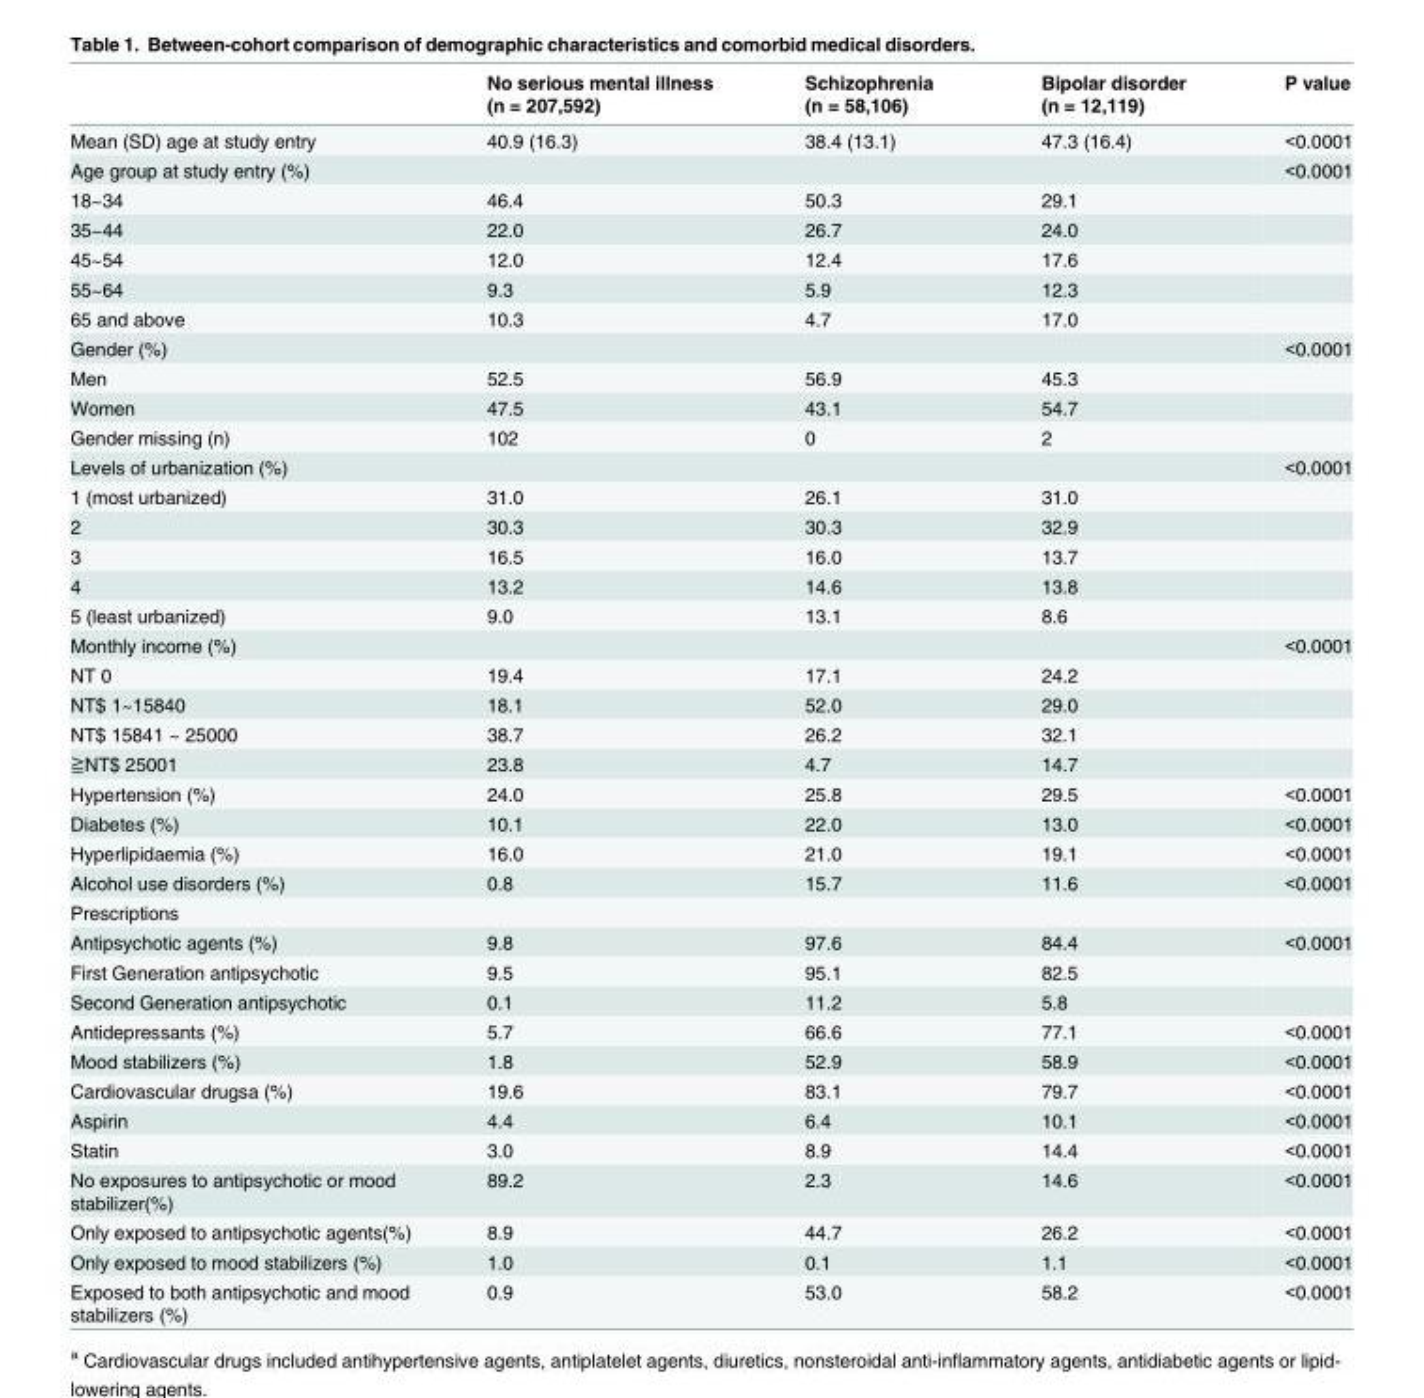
<table><thead><tr><td></td><td>No serious mental illness (n = 207,592)</td><td>Schizophrenia (n = 58,106)</td><td>Bipolar disorder (n = 12,119)</td><td>P value</td></tr></thead><tbody><tr><td>Mean (SD) age at study entry</td><td>40.9 (16.3)</td><td>38.4 (13.1)</td><td>47.3 (16.4)</td><td>&lt;0.0001</td></tr><tr><td>Age group at study entry (%)</td><td></td><td></td><td></td><td>&lt;0.0001</td></tr><tr><td>18~34</td><td>46.4</td><td>50.3</td><td>29.1</td><td></td></tr><tr><td>35~44</td><td>22.0</td><td>26.7</td><td>24.0</td><td></td></tr><tr><td>45~54</td><td>12.0</td><td>12.4</td><td>17.6</td><td></td></tr><tr><td>55~64</td><td>9.3</td><td>5.9</td><td>12.3</td><td></td></tr><tr><td>65 and above</td><td>10.3</td><td>4.7</td><td>17.0</td><td></td></tr><tr><td>Gender (%)</td><td></td><td></td><td></td><td>&lt;0.0001</td></tr><tr><td>Men</td><td>52.5</td><td>56.9</td><td>45.3</td><td></td></tr><tr><td>Women</td><td>47.5</td><td>43.1</td><td>54.7</td><td></td></tr><tr><td>Gender missing (n)</td><td>102</td><td>0</td><td>2</td><td></td></tr><tr><td>Levels of urbanization (%)</td><td></td><td></td><td></td><td>&lt;0.0001</td></tr><tr><td>1 (most urbanized)</td><td>31.0</td><td>26.1</td><td>31.0</td><td></td></tr><tr><td>2</td><td>30.3</td><td>30.3</td><td>32.9</td><td></td></tr><tr><td>3</td><td>16.5</td><td>16.0</td><td>13.7</td><td></td></tr><tr><td>4</td><td>13.2</td><td>14.6</td><td>13.8</td><td></td></tr><tr><td>5 (least urbanized)</td><td>9.0</td><td>13.1</td><td>8.6</td><td></td></tr><tr><td>Monthly income (%)</td><td></td><td></td><td></td><td>&lt;0.0001</td></tr><tr><td>NT 0</td><td>19.4</td><td>17.1</td><td>24.2</td><td></td></tr><tr><td>NT$ 1~15840</td><td>18.1</td><td>52.0</td><td>29.0</td><td></td></tr><tr><td>NT$ 15841 ~ 25000</td><td>38.7</td><td>26.2</td><td>32.1</td><td></td></tr><tr><td>≧NT$ 25001</td><td>23.8</td><td>4.7</td><td>14.7</td><td></td></tr><tr><td>Hypertension (%)</td><td>24.0</td><td>25.8</td><td>29.5</td><td>&lt;0.0001</td></tr><tr><td>Diabetes (%)</td><td>10.1</td><td>22.0</td><td>13.0</td><td>&lt;0.0001</td></tr><tr><td>Hyperlipidaemia (%)</td><td>16.0</td><td>21.0</td><td>19.1</td><td>&lt;0.0001</td></tr><tr><td>Alcohol use disorders (%)</td><td>0.8</td><td>15.7</td><td>11.6</td><td>&lt;0.0001</td></tr><tr><td colspan="5">Prescriptions</td></tr><tr><td>Antipsychotic agents (%)</td><td>9.8</td><td>97.6</td><td>84.4</td><td>&lt;0.0001</td></tr><tr><td>First Generation antipsychotic</td><td>9.5</td><td>95.1</td><td>82.5</td><td></td></tr><tr><td>Second Generation antipsychotic</td><td>0.1</td><td>11.2</td><td>5.8</td><td></td></tr><tr><td>Antidepressants (%)</td><td>5.7</td><td>66.6</td><td>77.1</td><td>&lt;0.0001</td></tr><tr><td>Mood stabilizers (%)</td><td>1.8</td><td>52.9</td><td>58.9</td><td>&lt;0.0001</td></tr><tr><td>Cardiovascular drugsa (%)</td><td>19.6</td><td>83.1</td><td>79.7</td><td>&lt;0.0001</td></tr><tr><td>Aspirin</td><td>4.4</td><td>6.4</td><td>10.1</td><td>&lt;0.0001</td></tr><tr><td>Statin</td><td>3.0</td><td>8.9</td><td>14.4</td><td>&lt;0.0001</td></tr><tr><td>No exposures to antipsychotic or mood stabilizer(%)</td><td>89.2</td><td>2.3</td><td>14.6</td><td>&lt;0.0001</td></tr><tr><td>Only exposed to antipsychotic agents(%)</td><td>8.9</td><td>44.7</td><td>26.2</td><td>&lt;0.0001</td></tr><tr><td>Only exposed to mood stabilizers (%)</td><td>1.0</td><td>0.1</td><td>1.1</td><td>&lt;0.0001</td></tr><tr><td>Exposed to both antipsychotic and mood stabilizers (%)</td><td>0.9</td><td>53.0</td><td>58.2</td><td>&lt;0.0001</td></tr></tbody></table>